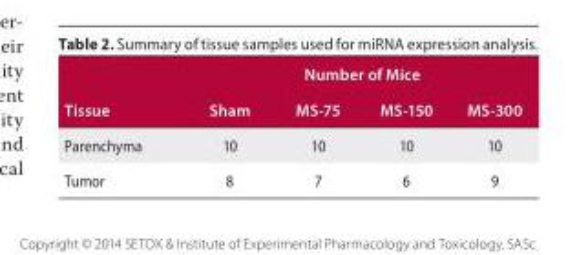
<table><thead><tr><td rowspan="2">Tissue</td><td colspan="4">Number of Mice</td></tr><tr><td>Sham</td><td>MS-75</td><td>MS-150</td><td>MS-300</td></tr></thead><tbody><tr><td>Parenchyma</td><td>10</td><td>10</td><td>10</td><td>10</td></tr><tr><td>Tumor</td><td>8</td><td>7</td><td>6</td><td>9</td></tr></tbody></table>